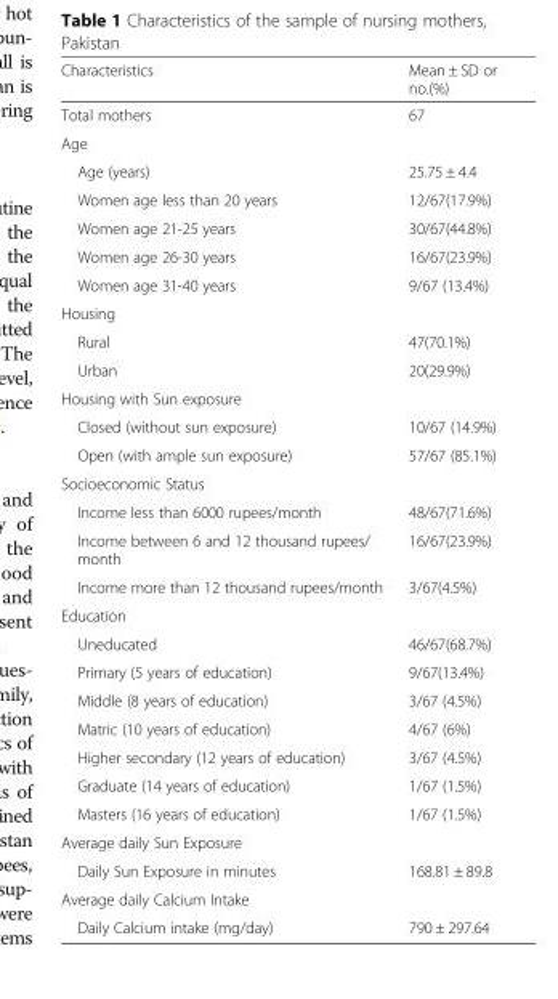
<table><thead><tr><td>Characteristics</td><td>Mean ± SD or no.(%)</td></tr></thead><tbody><tr><td>Total mothers</td><td>67</td></tr><tr><td colspan="2">Age</td></tr><tr><td>Age (years)</td><td>25.75 ± 4.4</td></tr><tr><td>Women age less than 20 years</td><td>12/67(17.9%)</td></tr><tr><td>Women age 21-25 years</td><td>30/67(44.8%)</td></tr><tr><td>Women age 26-30 years</td><td>16/67(23.9%)</td></tr><tr><td>Women age 31-40 years</td><td>9/67 (13.4%)</td></tr><tr><td colspan="2">Housing</td></tr><tr><td>Rural</td><td>47(70.1%)</td></tr><tr><td>Urban</td><td>20(29.9%)</td></tr><tr><td colspan="2">Housing with Sun exposure</td></tr><tr><td>Closed (without sun exposure)</td><td>10/67 (14.9%)</td></tr><tr><td>Open (with ample sun exposure)</td><td>57/67 (85.1%)</td></tr><tr><td colspan="2">Socioeconomic Status</td></tr><tr><td>Income less than 6000 rupees/month</td><td>48/67(71.6%)</td></tr><tr><td>Income between 6 and 12 thousand rupees/ month</td><td>16/67(23.9%)</td></tr><tr><td>Income more than 12 thousand rupees/month</td><td>3/67(4.5%)</td></tr><tr><td colspan="2">Education</td></tr><tr><td>Uneducated</td><td>46/67(68.7%)</td></tr><tr><td>Primary (5 years of education)</td><td>9/67(13.4%)</td></tr><tr><td>Middle (8 years of education)</td><td>3/67 (4.5%)</td></tr><tr><td>Matric (10 years of education)</td><td>4/67 (6%)</td></tr><tr><td>Higher secondary (12 years of education)</td><td>3/67 (4.5%)</td></tr><tr><td>Graduate (14 years of education)</td><td>1/67 (1.5%)</td></tr><tr><td>Masters (16 years of education)</td><td>1/67 (1.5%)</td></tr><tr><td colspan="2">Average daily Sun Exposure</td></tr><tr><td>Daily Sun Exposure in minutes</td><td>168.81 ± 89.8</td></tr><tr><td colspan="2">Average daily Calcium Intake</td></tr><tr><td>Daily Calcium intake (mg/day)</td><td>790 ± 297.64</td></tr></tbody></table>